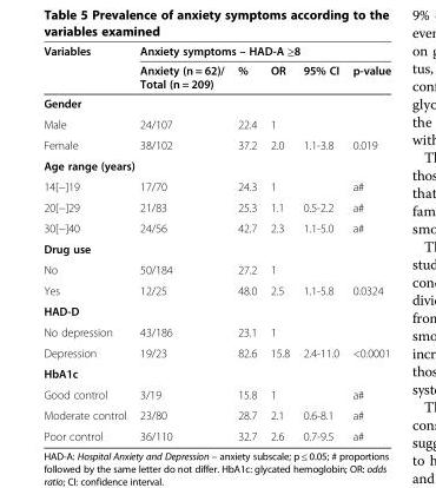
<table><thead><tr><td rowspan="2">Variables</td><td colspan="5">Anxiety symptoms – HAD-A ≥8</td></tr><tr><td>Anxiety (n = 62)/ Total (n = 209)</td><td>%</td><td>OR</td><td>95% CI</td><td>p-value</td></tr></thead><tbody><tr><td colspan="6">Gender</td></tr><tr><td>Male</td><td>24/107</td><td>22.4</td><td>1</td><td></td><td></td></tr><tr><td>Female</td><td>38/102</td><td>37.2</td><td>2.0</td><td>1.1-3.8</td><td>0.019</td></tr><tr><td colspan="6">Age range (years)</td></tr><tr><td>14[−]19</td><td>17/70</td><td>24.3</td><td>1</td><td></td><td>a#</td></tr><tr><td>20[−]29</td><td>21/83</td><td>25.3</td><td>1.1</td><td>0.5-2.2</td><td>a#</td></tr><tr><td>30[−]40</td><td>24/56</td><td>42.7</td><td>2.3</td><td>1.1-5.0</td><td>a#</td></tr><tr><td colspan="6">Drug use</td></tr><tr><td>No</td><td>50/184</td><td>27.2</td><td>1</td><td></td><td></td></tr><tr><td>Yes</td><td>12/25</td><td>48.0</td><td>2.5</td><td>1.1-5.8</td><td>0.0324</td></tr><tr><td colspan="6">HAD-D</td></tr><tr><td>No depression</td><td>43/186</td><td>23.1</td><td>1</td><td></td><td></td></tr><tr><td>Depression</td><td>19/23</td><td>82.6</td><td>15.8</td><td>2.4-11.0</td><td>&lt;0.0001</td></tr><tr><td colspan="6">HbA1c</td></tr><tr><td>Good control</td><td>3/19</td><td>15.8</td><td>1</td><td></td><td>a#</td></tr><tr><td>Moderate control</td><td>23/80</td><td>28.7</td><td>2.1</td><td>0.6-8.1</td><td>a#</td></tr><tr><td>Poor control</td><td>36/110</td><td>32.7</td><td>2.6</td><td>0.7-9.5</td><td>a#</td></tr></tbody></table>